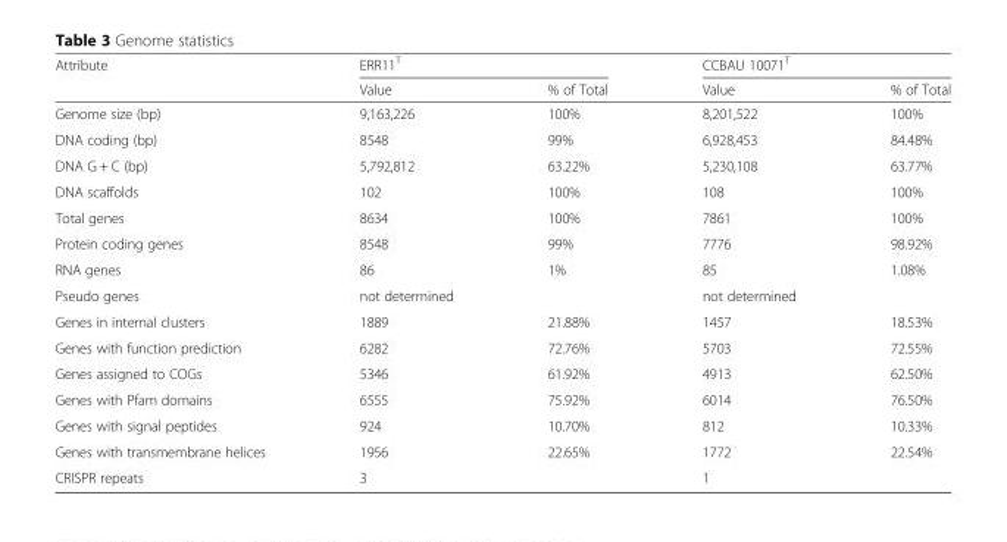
<table><thead><tr><td rowspan="2">Attribute</td><td colspan="2">ERR11<sup>T</sup></td><td colspan="2">CCBAU 10071<sup>T</sup></td></tr><tr><td>Value</td><td>% of Total</td><td>Value</td><td>% of Total</td></tr></thead><tbody><tr><td>Genome size (bp)</td><td>9,163,226</td><td>100%</td><td>8,201,522</td><td>100%</td></tr><tr><td>DNA coding (bp)</td><td>8548</td><td>99%</td><td>6,928,453</td><td>84.48%</td></tr><tr><td>DNA G + C (bp)</td><td>5,792,812</td><td>63.22%</td><td>5,230,108</td><td>63.77%</td></tr><tr><td>DNA scaffolds</td><td>102</td><td>100%</td><td>108</td><td>100%</td></tr><tr><td>Total genes</td><td>8634</td><td>100%</td><td>7861</td><td>100%</td></tr><tr><td>Protein coding genes</td><td>8548</td><td>99%</td><td>7776</td><td>98.92%</td></tr><tr><td>RNA genes</td><td>86</td><td>1%</td><td>85</td><td>1.08%</td></tr><tr><td>Pseudo genes</td><td>not determined</td><td></td><td>not determined</td><td></td></tr><tr><td>Genes in internal clusters</td><td>1889</td><td>21.88%</td><td>1457</td><td>18.53%</td></tr><tr><td>Genes with function prediction</td><td>6282</td><td>72.76%</td><td>5703</td><td>72.55%</td></tr><tr><td>Genes assigned to COGs</td><td>5346</td><td>61.92%</td><td>4913</td><td>62.50%</td></tr><tr><td>Genes with Pfam domains</td><td>6555</td><td>75.92%</td><td>6014</td><td>76.50%</td></tr><tr><td>Genes with signal peptides</td><td>924</td><td>10.70%</td><td>812</td><td>10.33%</td></tr><tr><td>Genes with transmembrane helices</td><td>1956</td><td>22.65%</td><td>1772</td><td>22.54%</td></tr><tr><td>CRISPR repeats</td><td>3</td><td></td><td>1</td><td></td></tr></tbody></table>